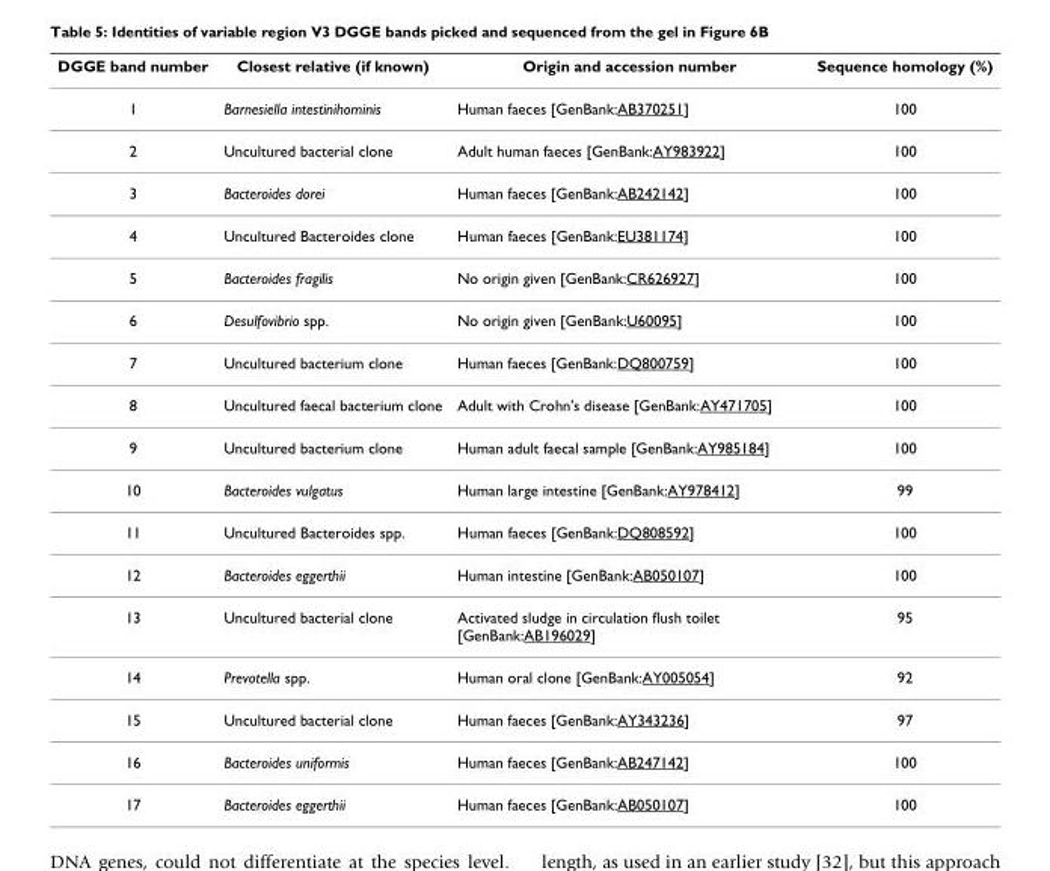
<table><thead><tr><td>DGGE band number</td><td>Closest relative (if known)</td><td>Origin and accession number</td><td>Sequence homology (%)</td></tr></thead><tbody><tr><td>1</td><td>Barnesiella intestinihominis</td><td>Human faeces [GenBank:AB370251]</td><td>100</td></tr><tr><td>2</td><td>Uncultured bacterial clone</td><td>Adult human faeces [GenBank:AY983922]</td><td>100</td></tr><tr><td>3</td><td>Bacteroides dorei</td><td>Human faeces [GenBank:AB242142]</td><td>100</td></tr><tr><td>4</td><td>Uncultured Bacteroides clone</td><td>Human faeces [GenBank:EU381174]</td><td>100</td></tr><tr><td>5</td><td>Bacteroides fragilis</td><td>No origin given [GenBank:CR626927]</td><td>100</td></tr><tr><td>6</td><td>Desulfovibrio spp.</td><td>No origin given [GenBank:U60095]</td><td>100</td></tr><tr><td>7</td><td>Uncultured bacterium clone</td><td>Human faeces [GenBank:DQ800759]</td><td>100</td></tr><tr><td>8</td><td>Uncultured faecal bacterium clone</td><td>Adult with Crohn&#x27;s disease [GenBank:AY471705]</td><td>100</td></tr><tr><td>9</td><td>Uncultured bacterium clone</td><td>Human adult faecal sample [GenBank:AY985184]</td><td>100</td></tr><tr><td>10</td><td>Bacteroides vulgatus</td><td>Human large intestine [GenBank:AY978412]</td><td>99</td></tr><tr><td>11</td><td>Uncultured Bacteroides spp.</td><td>Human faeces [GenBank:DQ808592]</td><td>100</td></tr><tr><td>12</td><td>Bacteroides eggerthii</td><td>Human intestine [GenBank:AB050107]</td><td>100</td></tr><tr><td>13</td><td>Uncultured bacterial clone</td><td>Activated sludge in circulation flush toilet [GenBank:AB196029]</td><td>95</td></tr><tr><td>14</td><td>Prevotella spp.</td><td>Human oral clone [GenBank:AY005054]</td><td>92</td></tr><tr><td>15</td><td>Uncultured bacterial clone</td><td>Human faeces [GenBank:AY343236]</td><td>97</td></tr><tr><td>16</td><td>Bacteroides uniformis</td><td>Human faeces [GenBank:AB247142]</td><td>100</td></tr><tr><td>17</td><td>Bacteroides eggerthii</td><td>Human faeces [GenBank:AB050107]</td><td>100</td></tr></tbody></table>